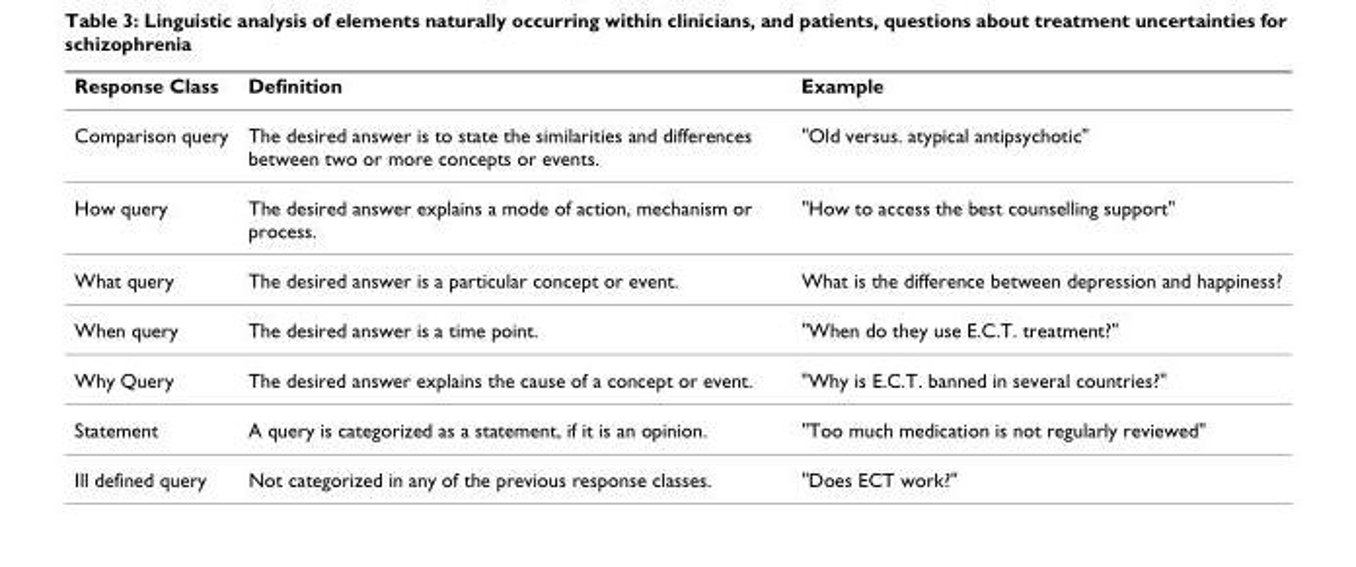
<table><thead><tr><td>Response Class</td><td>Definition</td><td>Example</td></tr></thead><tbody><tr><td>Comparison query</td><td>The desired answer is to state the similarities and differences between two or more concepts or events.</td><td>&quot;Old versus. atypical antipsychotic&quot;</td></tr><tr><td>How query</td><td>The desired answer explains a mode of action, mechanism or process.</td><td>&quot;How to access the best counselling support&quot;</td></tr><tr><td>What query</td><td>The desired answer is a particular concept or event.</td><td>What is the difference between depression and happiness?</td></tr><tr><td>When query</td><td>The desired answer is a time point.</td><td>&quot;When do they use E.C.T. treatment?&quot;</td></tr><tr><td>Why Query</td><td>The desired answer explains the cause of a concept or event.</td><td>&quot;Why is E.C.T. banned in several countries?&quot;</td></tr><tr><td>Statement</td><td>A query is categorized as a statement, if it is an opinion.</td><td>&quot;Too much medication is not regularly reviewed&quot;</td></tr><tr><td>Ill defined query</td><td>Not categorized in any of the previous response classes.</td><td>&quot;Does ECT work?&quot;</td></tr></tbody></table>